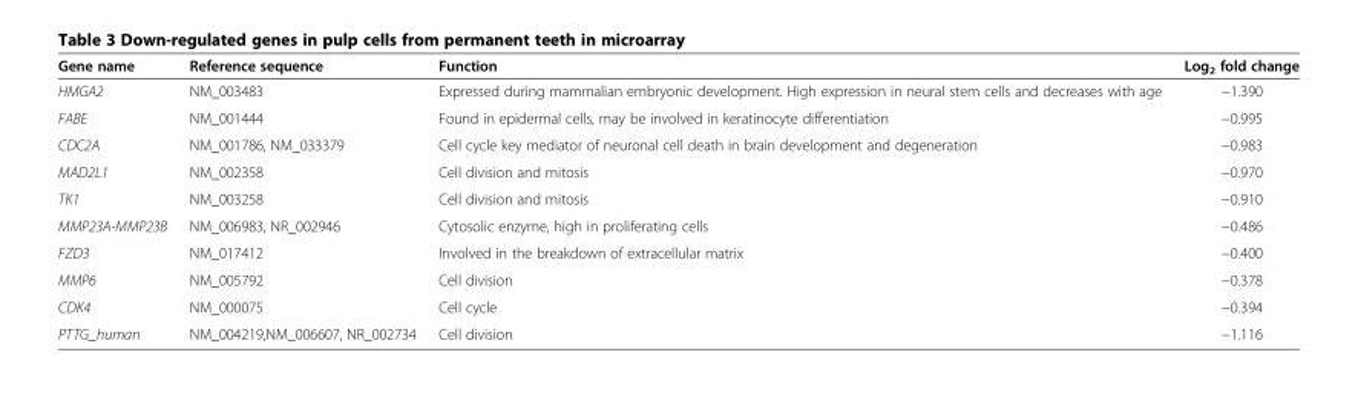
<table><thead><tr><td>Gene name</td><td>Reference sequence</td><td>Function</td><td>Log<sub>2</sub> fold change</td></tr></thead><tbody><tr><td>HMGA2</td><td>NM_003483</td><td>Expressed during mammalian embryonic development. High expression in neural stem cells and decreases with age</td><td>−1.390</td></tr><tr><td>FABE</td><td>NM_001444</td><td>Found in epidermal cells, may be involved in keratinocyte differentiation</td><td>−0.995</td></tr><tr><td>CDC2A</td><td>NM_001786, NM_033379</td><td>Cell cycle key mediator of neuronal cell death in brain development and degeneration</td><td>−0.983</td></tr><tr><td>MAD2L1</td><td>NM_002358</td><td>Cell division and mitosis</td><td>−0.970</td></tr><tr><td>TK1</td><td>NM_003258</td><td>Cell division and mitosis</td><td>−0.910</td></tr><tr><td>MMP23A-MMP23B</td><td>NM_006983, NR_002946</td><td>Cytosolic enzyme, high in proliferating cells</td><td>−0.486</td></tr><tr><td>FZD3</td><td>NM_017412</td><td>Involved in the breakdown of extracellular matrix</td><td>−0.400</td></tr><tr><td>MMP6</td><td>NM_005792</td><td>Cell division</td><td>−0.378</td></tr><tr><td>CDK4</td><td>NM_000075</td><td>Cell cycle</td><td>−0.394</td></tr><tr><td>PTTG_human</td><td>NM_004219,NM_006607, NR_002734</td><td>Cell division</td><td>−1.116</td></tr></tbody></table>